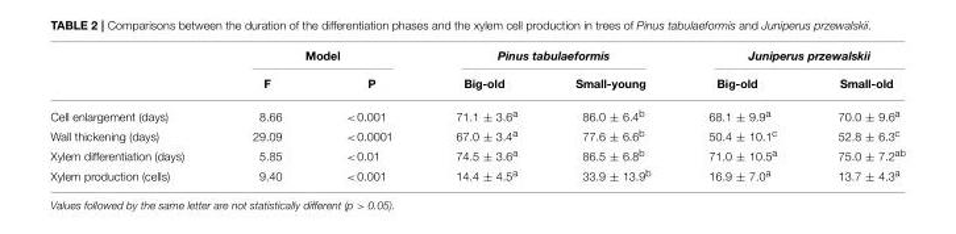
<table><thead><tr><td rowspan="2"></td><td colspan="2">Model</td><td colspan="2">Pinus tabulaeformis</td><td colspan="2">Juniperus przewalskii</td></tr><tr><td>F</td><td>P</td><td>Big-old</td><td>Small-young</td><td>Big-old</td><td>Small-old</td></tr></thead><tbody><tr><td>Cell enlargement (days)</td><td>8.66</td><td>&lt;0.001</td><td>71.1 ± 3.6<sup>a</sup></td><td>86.0 ± 6.4<sup>b</sup></td><td>68.1 ± 9.9<sup>a</sup></td><td>70.0 ± 9.6<sup>a</sup></td></tr><tr><td>Wall thickening (days)</td><td>29.09</td><td>&lt;0.0001</td><td>67.0 ± 3.4<sup>a</sup></td><td>77.6 ± 6.6<sup>b</sup></td><td>50.4 ± 10.1<sup>c</sup></td><td>52.8 ± 6.3<sup>c</sup></td></tr><tr><td>Xylem differentiation (days)</td><td>5.85</td><td>&lt;0.01</td><td>74.5 ± 3.6<sup>a</sup></td><td>86.5 ± 6.8<sup>b</sup></td><td>71.0 ± 10.5<sup>a</sup></td><td>75.0 ± 7.2<sup>ab</sup></td></tr><tr><td>Xylem production (cells)</td><td>9.40</td><td>&lt;0.001</td><td>14.4 ± 4.5<sup>a</sup></td><td>33.9 ± 13.9<sup>b</sup></td><td>16.9 ± 7.0<sup>a</sup></td><td>13.7 ± 4.3<sup>a</sup></td></tr></tbody></table>